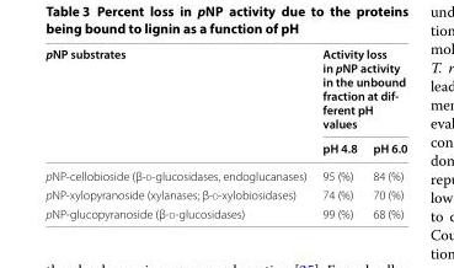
<table><thead><tr><td rowspan="2">pNP substrates</td><td colspan="2">Activity loss in pNP activity in the unbound fraction at dif- ferent pH values</td></tr><tr><td>pH 4.8</td><td>pH 6.0</td></tr></thead><tbody><tr><td>pNP-cellobioside (β-d-glucosidases, endoglucanases)</td><td>95 (%)</td><td>84 (%)</td></tr><tr><td>pNP-xylopyranoside (xylanases; β-d-xylobiosidases)</td><td>74 (%)</td><td>70 (%)</td></tr><tr><td>pNP-glucopyranoside (β-d-glucosidases)</td><td>99 (%)</td><td>68 (%)</td></tr></tbody></table>